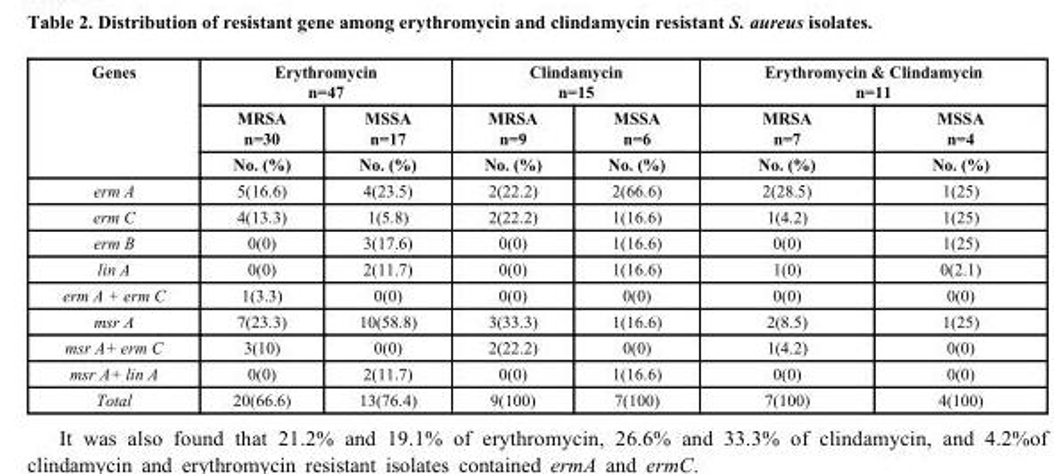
<table><thead><tr><td rowspan="3">Genes</td><td colspan="2">Erythromycin n=47</td><td colspan="2">Clindamycin n=15</td><td colspan="2">Erythromycin &amp; Clindamycin n=11</td></tr><tr><td rowspan="2">MRSA n=30 No. (%)</td><td rowspan="2">MSSA n=17 No. (%)</td><td rowspan="2">MRSA n=9 No. (%)</td><td rowspan="2">MSSA n=6 No. (%)</td><td rowspan="2">MRSA n=7 No. (%)</td><td rowspan="2">MSSA n=4 No. (%)</td></tr><tr></tr></thead><tbody><tr><td>erm A</td><td>5(16.6)</td><td>4(23.5)</td><td>2(22.2)</td><td>2(66.6)</td><td>2(28.5)</td><td>1(25)</td></tr><tr><td>erm C</td><td>4(13.3)</td><td>1(5.8)</td><td>2(22.2)</td><td>1(16.6)</td><td>1(4.2)</td><td>1(25)</td></tr><tr><td>erm B</td><td>0(0)</td><td>3(17.6)</td><td>0(0)</td><td>1(16.6)</td><td>0(0)</td><td>1(25)</td></tr><tr><td>lin A</td><td>0(0)</td><td>2(11.7)</td><td>0(0)</td><td>1(16.6)</td><td>1(0)</td><td>0(2.1)</td></tr><tr><td>erm A + erm C</td><td>1(3.3)</td><td>0(0)</td><td>0(0)</td><td>0(0)</td><td>0(0)</td><td>0(0)</td></tr><tr><td>msr A</td><td>7(23.3)</td><td>10(58.8)</td><td>3(33.3)</td><td>1(16.6)</td><td>2(8.5)</td><td>1(25)</td></tr><tr><td>msr A+ erm C</td><td>3(10)</td><td>0(0)</td><td>2(22.2)</td><td>0(0)</td><td>1(4.2)</td><td>0(0)</td></tr><tr><td>msr A+ lin A</td><td>0(0)</td><td>2(11.7)</td><td>0(0)</td><td>1(16.6)</td><td>0(0)</td><td>0(0)</td></tr><tr><td>Total</td><td>20(66.6)</td><td>13(76.4)</td><td>9(100)</td><td>7(100)</td><td>7(100)</td><td>4(100)</td></tr></tbody></table>